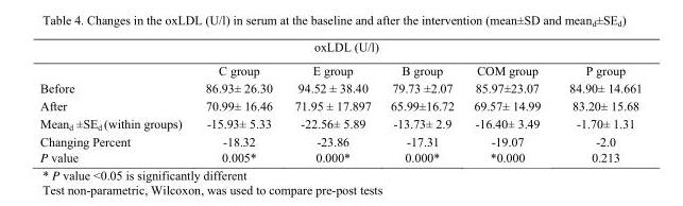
<table><thead><tr><td colspan="6">oxLDL (U/l)</td></tr><tr><td></td><td>C group</td><td>E group</td><td>B group</td><td>COM group</td><td>P group</td></tr></thead><tbody><tr><td>Before</td><td>86.93± 26.30</td><td>94.52 ± 38.40</td><td>79.73 ±2.07</td><td>85.97±23.07</td><td>84.90± 14.661</td></tr><tr><td>After</td><td>70.99± 16.46</td><td>71.95 ± 17.897</td><td>65.99±16.72</td><td>69.57± 14.99</td><td>83.20± 15.68</td></tr><tr><td>Mean<sub>d</sub> ±SE<sub>d</sub> (within groups)</td><td>-15.93± 5.33</td><td>-22.56± 5.89</td><td>-13.73± 2.9</td><td>-16.40± 3.49</td><td>-1.70± 1.31</td></tr><tr><td>Changing Percent</td><td>-18.32</td><td>-23.86</td><td>-17.31</td><td>-19.07</td><td>-2.0</td></tr><tr><td>P value</td><td>0.005*</td><td>0.000*</td><td>0.000*</td><td>*0.000</td><td>0.213</td></tr></tbody></table>